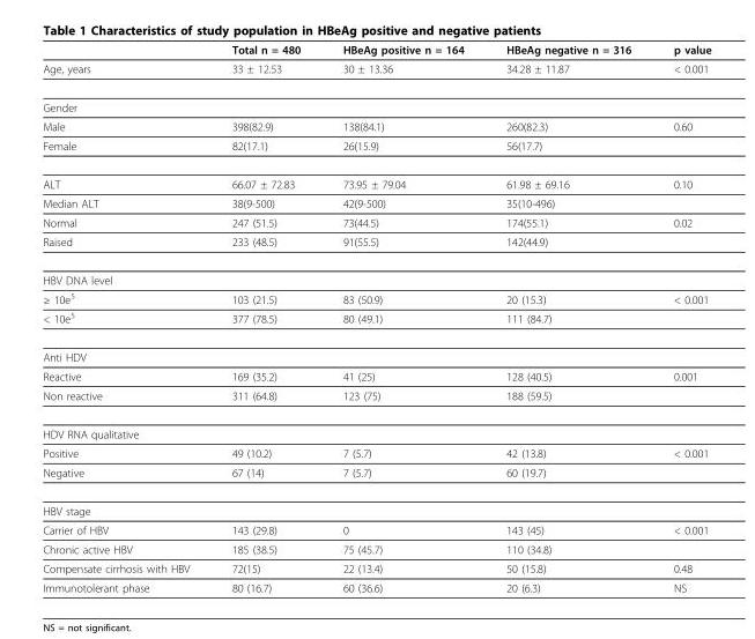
<table><thead><tr><td></td><td>Total n = 480</td><td>HBeAg positive n = 164</td><td>HBeAg negative n = 316</td><td>p value</td></tr></thead><tbody><tr><td>Age, years</td><td>33 ± 12.53</td><td>30 ± 13.36</td><td>34.28 ± 11.87</td><td>&lt; 0.001</td></tr><tr><td colspan="5">Gender</td></tr><tr><td>Male</td><td>398(82.9)</td><td>138(84.1)</td><td>260(82.3)</td><td>0.60</td></tr><tr><td>Female</td><td>82(17.1)</td><td>26(15.9)</td><td>56(17.7)</td><td></td></tr><tr><td>ALT</td><td>66.07 ± 72.83</td><td>73.95 ± 79.04</td><td>61.98 ± 69.16</td><td>0.10</td></tr><tr><td>Median ALT</td><td>38(9-500)</td><td>42(9-500)</td><td>35(10-496)</td><td></td></tr><tr><td>Normal</td><td>247 (51.5)</td><td>73(44.5)</td><td>174(55.1)</td><td>0.02</td></tr><tr><td>Raised</td><td>233 (48.5)</td><td>91(55.5)</td><td>142(44.9)</td><td></td></tr><tr><td colspan="5">HBV DNA level</td></tr><tr><td>≥ 10e5</td><td>103 (21.5)</td><td>83 (50.9)</td><td>20 (15.3)</td><td>&lt; 0.001</td></tr><tr><td>&lt; 10e5</td><td>377 (78.5)</td><td>80 (49.1)</td><td>111 (84.7)</td><td></td></tr><tr><td colspan="5">Anti HDV</td></tr><tr><td>Reactive</td><td>169 (35.2)</td><td>41 (25)</td><td>128 (40.5)</td><td>0.001</td></tr><tr><td>Non reactive</td><td>311 (64.8)</td><td>123 (75)</td><td>188 (59.5)</td><td></td></tr><tr><td colspan="5">HDV RNA qualitative</td></tr><tr><td>Positive</td><td>49 (10.2)</td><td>7 (5.7)</td><td>42 (13.8)</td><td>&lt; 0.001</td></tr><tr><td>Negative</td><td>67 (14)</td><td>7 (5.7)</td><td>60 (19.7)</td><td></td></tr><tr><td colspan="5">HBV stage</td></tr><tr><td>Carrier of HBV</td><td>143 (29.8)</td><td>0</td><td>143 (45)</td><td>&lt; 0.001</td></tr><tr><td>Chronic active HBV</td><td>185 (38.5)</td><td>75 (45.7)</td><td>110 (34.8)</td><td></td></tr><tr><td>Compensate cirrhosis with HBV</td><td>72(15)</td><td>22 (13.4)</td><td>50 (15.8)</td><td>0.48</td></tr><tr><td>Immunotolerant phase</td><td>80 (16.7)</td><td>60 (36.6)</td><td>20 (6.3)</td><td>NS</td></tr></tbody></table>